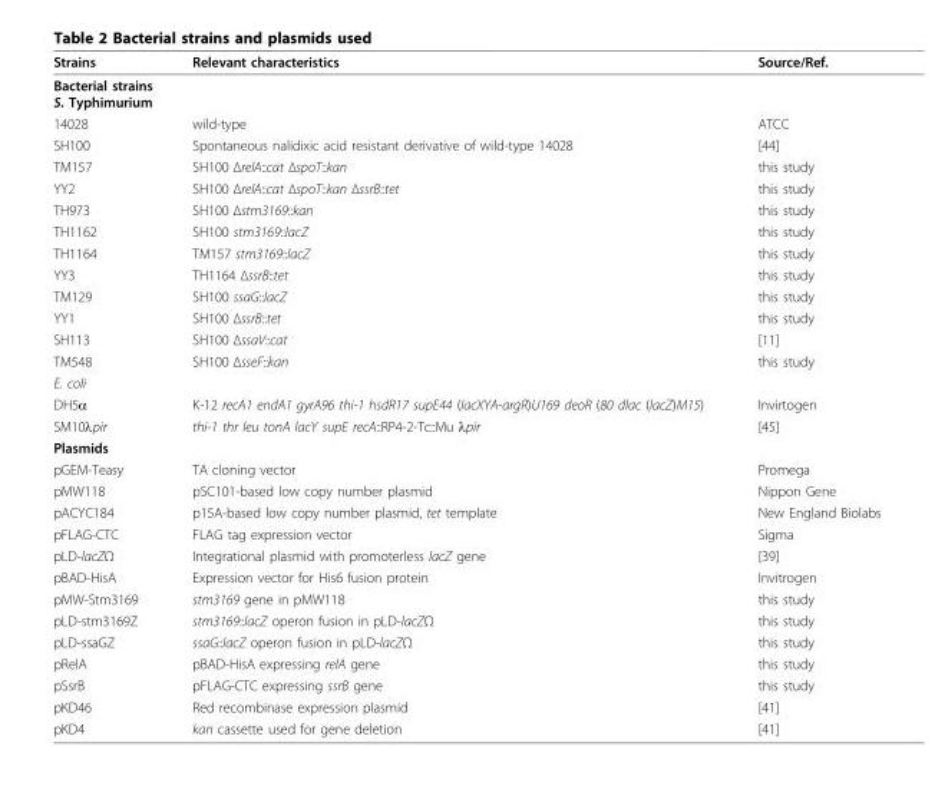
<table><thead><tr><td>Strains</td><td>Relevant characteristics</td><td>Source/Ref.</td></tr></thead><tbody><tr><td colspan="3">Bacterial strains S. Typhimurium</td></tr><tr><td>14028</td><td>wild-type</td><td>ATCC</td></tr><tr><td>SH100</td><td>Spontaneous nalidixic acid resistant derivative of wild-type 14028</td><td>[44]</td></tr><tr><td>TM157</td><td>SH100 ΔrelA::cat ΔspoT::kan</td><td>this study</td></tr><tr><td>YY2</td><td>SH100 ΔrelA::cat ΔspoT::kan ΔssrB::tet</td><td>this study</td></tr><tr><td>TH973</td><td>SH100 Δstm3169::kan</td><td>this study</td></tr><tr><td>TH1162</td><td>SH100 stm3169::lacZ</td><td>this study</td></tr><tr><td>TH1164</td><td>TM157 stm3169::lacZ</td><td>this study</td></tr><tr><td>YY3</td><td>TH1164 ΔssrB::tet</td><td>this study</td></tr><tr><td>TM129</td><td>SH100 ssaG::lacZ</td><td>this study</td></tr><tr><td>YY1</td><td>SH100 ΔssrB::tet</td><td>this study</td></tr><tr><td>SH113</td><td>SH100 ΔssaV::cat</td><td>[11]</td></tr><tr><td>TM548</td><td>SH100 ΔsseF::kan</td><td>this study</td></tr><tr><td colspan="3">E. coli</td></tr><tr><td>DH5α</td><td>K-12 recA1 endA1 gyrA96 thi-1 hsdR17 supE44 (lacXYA-argR)U169 deoR (80 dlac (lacZ)M15)</td><td>Invirtogen</td></tr><tr><td>SM10λpir</td><td>thi-1 thr leu tonA lacY supE recA::RP4-2-Tc::Mu λpir</td><td>[45]</td></tr><tr><td colspan="3">Plasmids</td></tr><tr><td>pGEM-Teasy</td><td>TA cloning vector</td><td>Promega</td></tr><tr><td>pMW118</td><td>pSC101-based low copy number plasmid</td><td>Nippon Gene</td></tr><tr><td>pACYC184</td><td>p15A-based low copy number plasmid, tet template</td><td>New England Biolabs</td></tr><tr><td>pFLAG-CTC</td><td>FLAG tag expression vector</td><td>Sigma</td></tr><tr><td>pLD-lacZΩ</td><td>Integrational plasmid with promoterless lacZ gene</td><td>[39]</td></tr><tr><td>pBAD-HisA</td><td>Expression vector for His6 fusion protein</td><td>Invitrogen</td></tr><tr><td>pMW-Stm3169</td><td>stm3169 gene in pMW118</td><td>this study</td></tr><tr><td>pLD-stm3169Z</td><td>stm3169::lacZ operon fusion in pLD-lacZΩ</td><td>this study</td></tr><tr><td>pLD-ssaGZ</td><td>ssaG::lacZ operon fusion in pLD-lacZΩ</td><td>this study</td></tr><tr><td>pRelA</td><td>pBAD-HisA expressing relA gene</td><td>this study</td></tr><tr><td>pSsrB</td><td>pFLAG-CTC expressing ssrB gene</td><td>this study</td></tr><tr><td>pKD46</td><td>Red recombinase expression plasmid</td><td>[41]</td></tr><tr><td>pKD4</td><td>kan cassette used for gene deletion</td><td>[41]</td></tr></tbody></table>